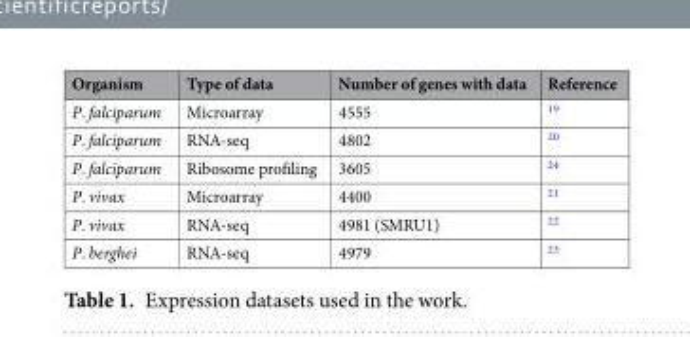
<table><thead><tr><td>Organism</td><td>Type of data</td><td>Number of genes with data</td><td>Reference</td></tr></thead><tbody><tr><td>P. falciparum</td><td>Microarray</td><td>4555</td><td><sup>19</sup></td></tr><tr><td>P. falciparum</td><td>RNA-seq</td><td>4802</td><td><sup>20</sup></td></tr><tr><td>P. falciparum</td><td>Ribosome profiling</td><td>3605</td><td><sup>24</sup></td></tr><tr><td>P. vivax</td><td>Microarray</td><td>4400</td><td><sup>21</sup></td></tr><tr><td>P. vivax</td><td>RNA-seq</td><td>4981 (SMRU1)</td><td><sup>22</sup></td></tr><tr><td>P. berghei</td><td>RNA-seq</td><td>4979</td><td><sup>23</sup></td></tr></tbody></table>